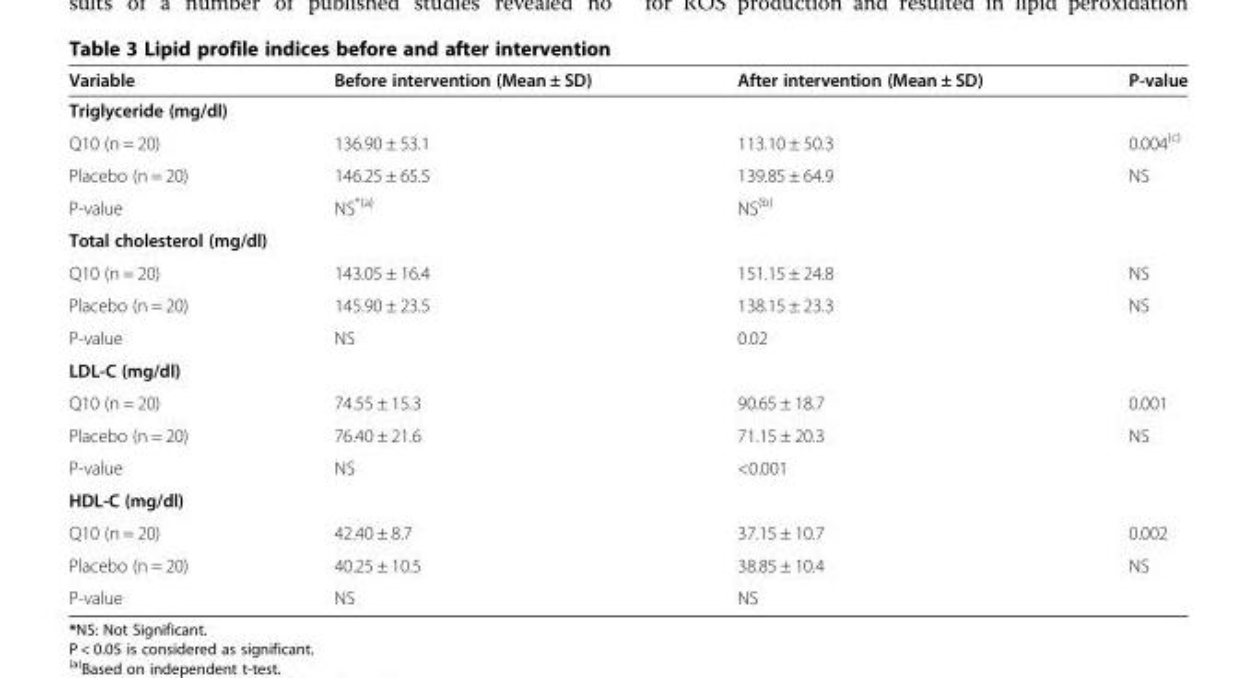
<table><thead><tr><td>Variable</td><td>Before intervention (Mean ± SD)</td><td>After intervention (Mean ± SD)</td><td>P-value</td></tr></thead><tbody><tr><td colspan="4">Triglyceride (mg/dl)</td></tr><tr><td>Q10 (n = 20)</td><td>136.90 ± 53.1</td><td>113.10 ± 50.3</td><td>0.004<sup>(c)</sup></td></tr><tr><td>Placebo (n = 20)</td><td>146.25 ± 65.5</td><td>139.85 ± 64.9</td><td>NS</td></tr><tr><td>P-value</td><td>NS<sup>*(a)</sup></td><td>NS<sup>(b)</sup></td><td></td></tr><tr><td colspan="4">Total cholesterol (mg/dl)</td></tr><tr><td>Q10 (n = 20)</td><td>143.05 ± 16.4</td><td>151.15 ± 24.8</td><td>NS</td></tr><tr><td>Placebo (n = 20)</td><td>145.90 ± 23.5</td><td>138.15 ± 23.3</td><td>NS</td></tr><tr><td>P-value</td><td>NS</td><td>0.02</td><td></td></tr><tr><td colspan="4">LDL-C (mg/dl)</td></tr><tr><td>Q10 (n = 20)</td><td>74.55 ± 15.3</td><td>90.65 ± 18.7</td><td>0.001</td></tr><tr><td>Placebo (n = 20)</td><td>76.40 ± 21.6</td><td>71.15 ± 20.3</td><td>NS</td></tr><tr><td>P-value</td><td>NS</td><td>&lt;0.001</td><td></td></tr><tr><td colspan="4">HDL-C (mg/dl)</td></tr><tr><td>Q10 (n = 20)</td><td>42.40 ± 8.7</td><td>37.15 ± 10.7</td><td>0.002</td></tr><tr><td>Placebo (n = 20)</td><td>40.25 ± 10.5</td><td>38.85 ± 10.4</td><td>NS</td></tr><tr><td>P-value</td><td>NS</td><td>NS</td><td></td></tr></tbody></table>